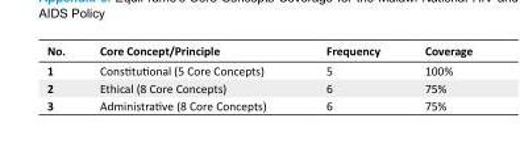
<table><tbody><tr><td>No.</td><td>Core Concept/Principle</td><td>Frequency</td><td>Coverage</td></tr><tr><td>1</td><td>Constitutional (5 Core Concepts)</td><td>5</td><td>100%</td></tr><tr><td>2</td><td>Ethical (8 Core Concepts)</td><td>6</td><td>75%</td></tr><tr><td>3</td><td>Administrative (8 Core Concepts)</td><td>6</td><td>75%</td></tr></tbody></table>